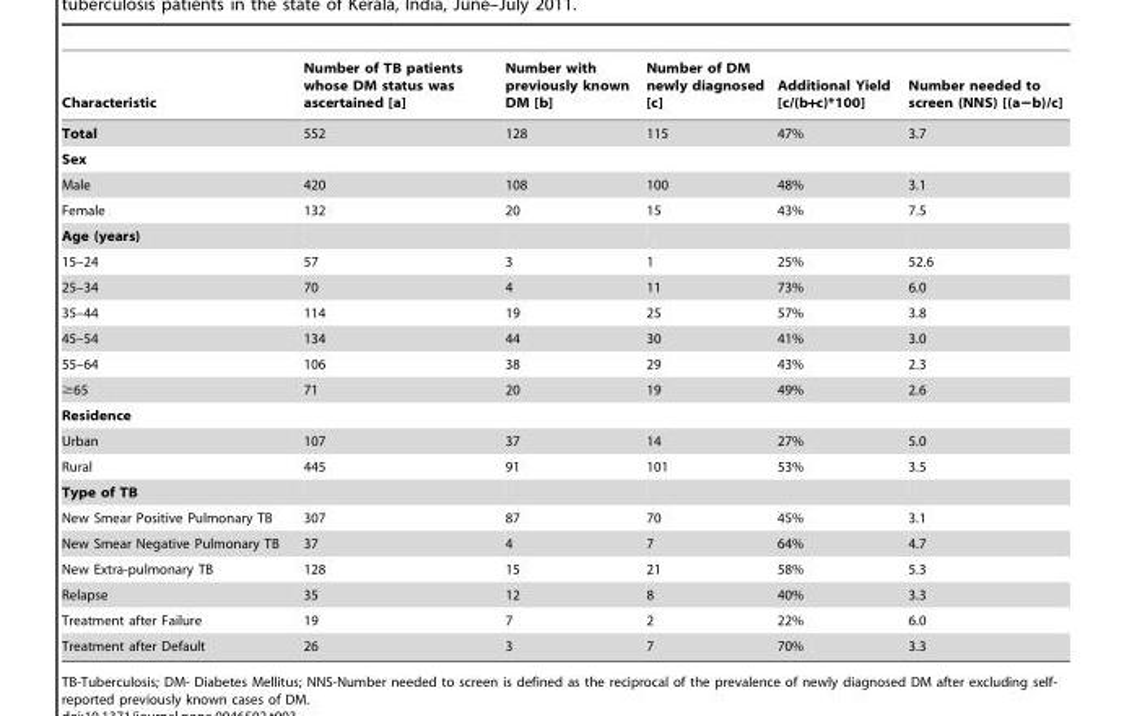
<table><thead><tr><td>Characteristic</td><td>Number of TB patients whose DM status was ascertained [a]</td><td>Number with previously known DM [b]</td><td>Number of DM newly diagnosed [c]</td><td>Additional Yield [c/(b+c)*100]</td><td>Number needed to screen (NNS) [(a−b)/c]</td></tr></thead><tbody><tr><td>Total</td><td>552</td><td>128</td><td>115</td><td>47%</td><td>3.7</td></tr><tr><td colspan="6">Sex</td></tr><tr><td>Male</td><td>420</td><td>108</td><td>100</td><td>48%</td><td>3.1</td></tr><tr><td>Female</td><td>132</td><td>20</td><td>15</td><td>43%</td><td>7.5</td></tr><tr><td colspan="6">Age (years)</td></tr><tr><td>15–24</td><td>57</td><td>3</td><td>1</td><td>25%</td><td>52.6</td></tr><tr><td>25–34</td><td>70</td><td>4</td><td>11</td><td>73%</td><td>6.0</td></tr><tr><td>35–44</td><td>114</td><td>19</td><td>25</td><td>57%</td><td>3.8</td></tr><tr><td>45–54</td><td>134</td><td>44</td><td>30</td><td>41%</td><td>3.0</td></tr><tr><td>55–64</td><td>106</td><td>38</td><td>29</td><td>43%</td><td>2.3</td></tr><tr><td>≥65</td><td>71</td><td>20</td><td>19</td><td>49%</td><td>2.6</td></tr><tr><td colspan="6">Residence</td></tr><tr><td>Urban</td><td>107</td><td>37</td><td>14</td><td>27%</td><td>5.0</td></tr><tr><td>Rural</td><td>445</td><td>91</td><td>101</td><td>53%</td><td>3.5</td></tr><tr><td colspan="6">Type of TB</td></tr><tr><td>New Smear Positive Pulmonary TB</td><td>307</td><td>87</td><td>70</td><td>45%</td><td>3.1</td></tr><tr><td>New Smear Negative Pulmonary TB</td><td>37</td><td>4</td><td>7</td><td>64%</td><td>4.7</td></tr><tr><td>New Extra-pulmonary TB</td><td>128</td><td>15</td><td>21</td><td>58%</td><td>5.3</td></tr><tr><td>Relapse</td><td>35</td><td>12</td><td>8</td><td>40%</td><td>3.3</td></tr><tr><td>Treatment after Failure</td><td>19</td><td>7</td><td>2</td><td>22%</td><td>6.0</td></tr><tr><td>Treatment after Default</td><td>26</td><td>3</td><td>7</td><td>70%</td><td>3.3</td></tr></tbody></table>